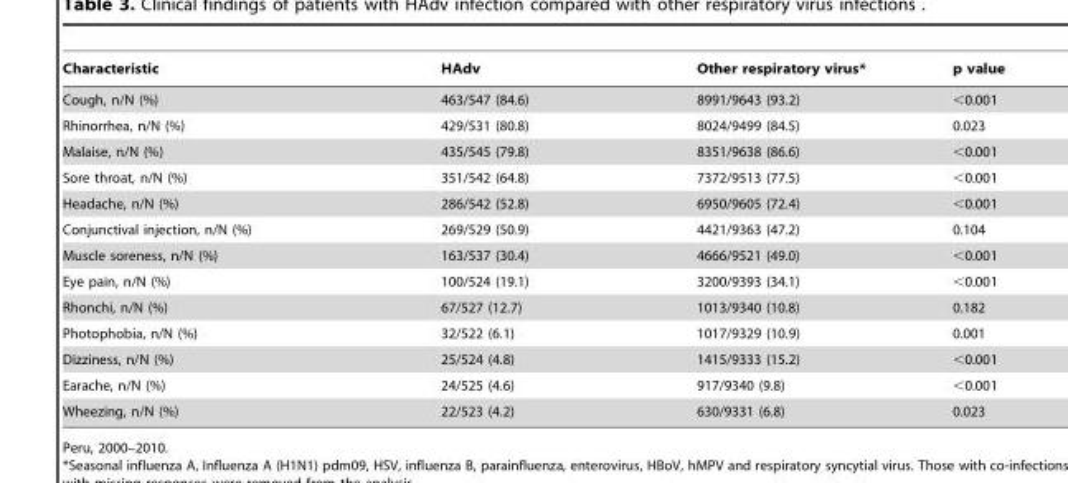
<table><thead><tr><td>Characteristic</td><td>HAdv</td><td>Other respiratory virus*</td><td>p value</td></tr></thead><tbody><tr><td>Cough, n/N (%)</td><td>463/547 (84.6)</td><td>8991/9643 (93.2)</td><td>&lt;0.001</td></tr><tr><td>Rhinorrhea, n/N (%)</td><td>429/531 (80.8)</td><td>8024/9499 (84.5)</td><td>0.023</td></tr><tr><td>Malaise, n/N (%)</td><td>435/545 (79.8)</td><td>8351/9638 (86.6)</td><td>&lt;0.001</td></tr><tr><td>Sore throat, n/N (%)</td><td>351/542 (64.8)</td><td>7372/9513 (77.5)</td><td>&lt;0.001</td></tr><tr><td>Headache, n/N (%)</td><td>286/542 (52.8)</td><td>6950/9605 (72.4)</td><td>&lt;0.001</td></tr><tr><td>Conjunctival injection, n/N (%)</td><td>269/529 (50.9)</td><td>4421/9363 (47.2)</td><td>0.104</td></tr><tr><td>Muscle soreness, n/N (%)</td><td>163/537 (30.4)</td><td>4666/9521 (49.0)</td><td>&lt;0.001</td></tr><tr><td>Eye pain, n/N (%)</td><td>100/524 (19.1)</td><td>3200/9393 (34.1)</td><td>&lt;0.001</td></tr><tr><td>Rhonchi, n/N (%)</td><td>67/527 (12.7)</td><td>1013/9340 (10.8)</td><td>0.182</td></tr><tr><td>Photophobia, n/N (%)</td><td>32/522 (6.1)</td><td>1017/9329 (10.9)</td><td>0.001</td></tr><tr><td>Dizziness, n/N (%)</td><td>25/524 (4.8)</td><td>1415/9333 (15.2)</td><td>&lt;0.001</td></tr><tr><td>Earache, n/N (%)</td><td>24/525 (4.6)</td><td>917/9340 (9.8)</td><td>&lt;0.001</td></tr><tr><td>Wheezing, n/N (%)</td><td>22/523 (4.2)</td><td>630/9331 (6.8)</td><td>0.023</td></tr></tbody></table>